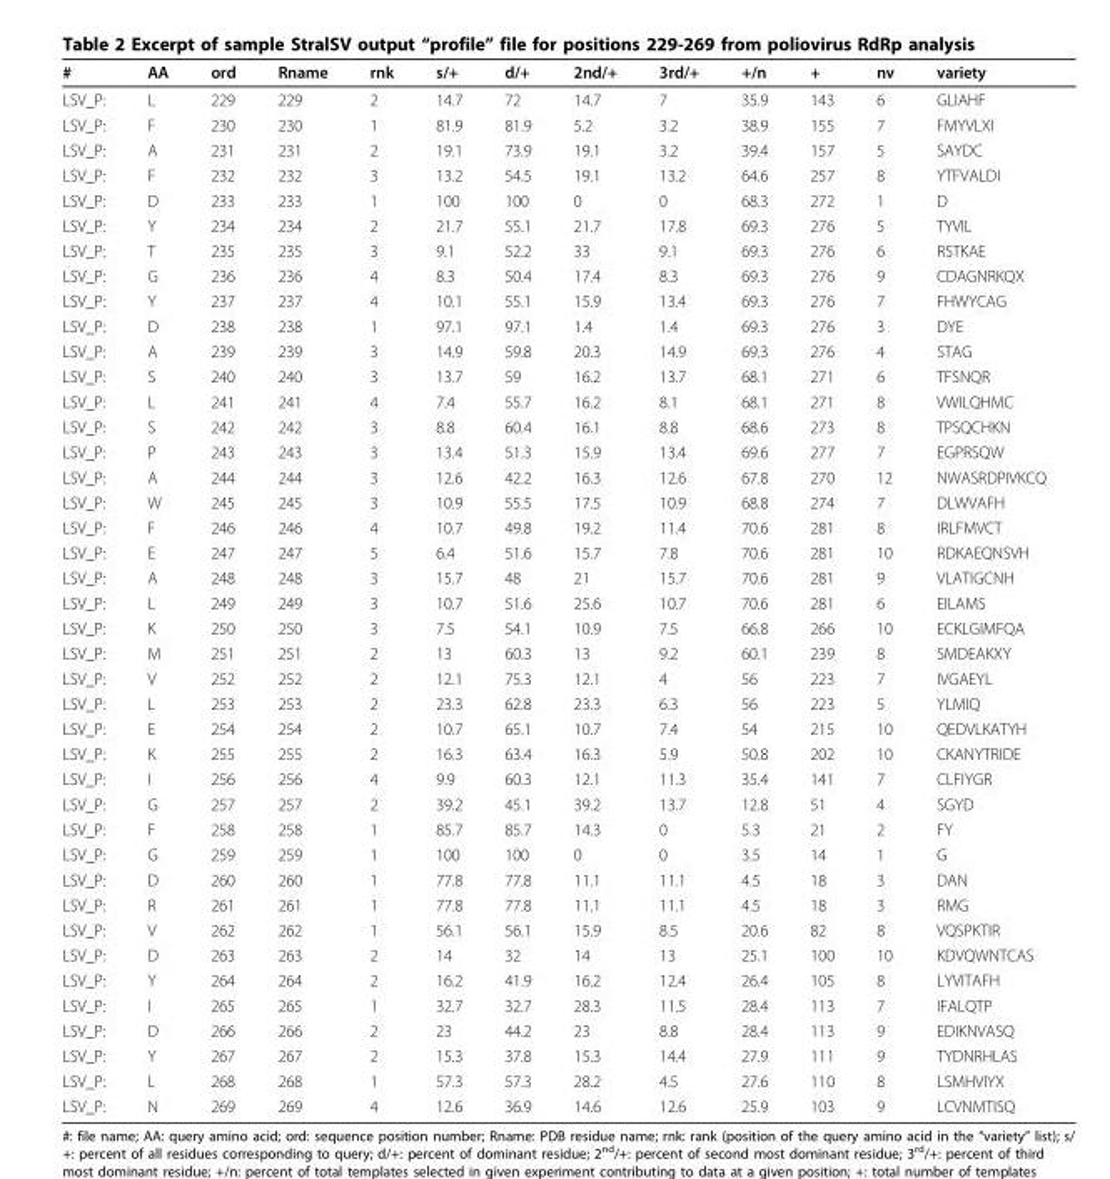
<table><thead><tr><td>#</td><td>AA</td><td>ord</td><td>Rname</td><td>rnk</td><td>s/+</td><td>d/+</td><td>2nd/+</td><td>3rd/+</td><td>+/n</td><td>+</td><td>nv</td><td>variety</td></tr></thead><tbody><tr><td>LSV_P:</td><td>L</td><td>229</td><td>229</td><td>2</td><td>14.7</td><td>72</td><td>14.7</td><td>7</td><td>35.9</td><td>143</td><td>6</td><td>GLIAHF</td></tr><tr><td>LSV_P:</td><td>F</td><td>230</td><td>230</td><td>1</td><td>81.9</td><td>81.9</td><td>5.2</td><td>3.2</td><td>38.9</td><td>155</td><td>7</td><td>FMYVLXI</td></tr><tr><td>LSV_P:</td><td>A</td><td>231</td><td>231</td><td>2</td><td>19.1</td><td>73.9</td><td>19.1</td><td>3.2</td><td>39.4</td><td>157</td><td>5</td><td>SAYDC</td></tr><tr><td>LSV_P:</td><td>F</td><td>232</td><td>232</td><td>3</td><td>13.2</td><td>54.5</td><td>19.1</td><td>13.2</td><td>64.6</td><td>257</td><td>8</td><td>YTFVALDI</td></tr><tr><td>LSV_P:</td><td>D</td><td>233</td><td>233</td><td>1</td><td>100</td><td>100</td><td>0</td><td>0</td><td>68.3</td><td>272</td><td>1</td><td>D</td></tr><tr><td>LSV_P:</td><td>Y</td><td>234</td><td>234</td><td>2</td><td>21.7</td><td>55.1</td><td>21.7</td><td>17.8</td><td>69.3</td><td>276</td><td>5</td><td>TYVIL</td></tr><tr><td>LSV_P:</td><td>T</td><td>235</td><td>235</td><td>3</td><td>9.1</td><td>52.2</td><td>33</td><td>9.1</td><td>69.3</td><td>276</td><td>6</td><td>RSTKAE</td></tr><tr><td>LSV_P:</td><td>G</td><td>236</td><td>236</td><td>4</td><td>8.3</td><td>50.4</td><td>17.4</td><td>8.3</td><td>69.3</td><td>276</td><td>9</td><td>CDAGNRKQX</td></tr><tr><td>LSV_P:</td><td>Y</td><td>237</td><td>237</td><td>4</td><td>10.1</td><td>55.1</td><td>15.9</td><td>13.4</td><td>69.3</td><td>276</td><td>7</td><td>FHWYCAG</td></tr><tr><td>LSV_P:</td><td>D</td><td>238</td><td>238</td><td>1</td><td>97.1</td><td>97.1</td><td>1.4</td><td>1.4</td><td>69.3</td><td>276</td><td>3</td><td>DYE</td></tr><tr><td>LSV_P:</td><td>A</td><td>239</td><td>239</td><td>3</td><td>14.9</td><td>59.8</td><td>20.3</td><td>14.9</td><td>69.3</td><td>276</td><td>4</td><td>STAG</td></tr><tr><td>LSV_P:</td><td>S</td><td>240</td><td>240</td><td>3</td><td>13.7</td><td>59</td><td>16.2</td><td>13.7</td><td>68.1</td><td>271</td><td>6</td><td>TFSNQR</td></tr><tr><td>LSV_P:</td><td>L</td><td>241</td><td>241</td><td>4</td><td>7.4</td><td>55.7</td><td>16.2</td><td>8.1</td><td>68.1</td><td>271</td><td>8</td><td>VWILQHMC</td></tr><tr><td>LSV_P:</td><td>S</td><td>242</td><td>242</td><td>3</td><td>8.8</td><td>60.4</td><td>16.1</td><td>8.8</td><td>68.6</td><td>273</td><td>8</td><td>TPSQCHKN</td></tr><tr><td>LSV_P:</td><td>P</td><td>243</td><td>243</td><td>3</td><td>13.4</td><td>51.3</td><td>15.9</td><td>13.4</td><td>69.6</td><td>277</td><td>7</td><td>EGPRSQW</td></tr><tr><td>LSV_P:</td><td>A</td><td>244</td><td>244</td><td>3</td><td>12.6</td><td>42.2</td><td>16.3</td><td>12.6</td><td>67.8</td><td>270</td><td>12</td><td>NWASRDPIVKCQ</td></tr><tr><td>LSV_P:</td><td>W</td><td>245</td><td>245</td><td>3</td><td>10.9</td><td>55.5</td><td>17.5</td><td>10.9</td><td>68.8</td><td>274</td><td>7</td><td>DLWVAFH</td></tr><tr><td>LSV_P:</td><td>F</td><td>246</td><td>246</td><td>4</td><td>10.7</td><td>49.8</td><td>19.2</td><td>11.4</td><td>70.6</td><td>281</td><td>8</td><td>IRLFMVCT</td></tr><tr><td>LSV_P:</td><td>E</td><td>247</td><td>247</td><td>5</td><td>6.4</td><td>51.6</td><td>15.7</td><td>7.8</td><td>70.6</td><td>281</td><td>10</td><td>RDKAEQNSVH</td></tr><tr><td>LSV_P:</td><td>A</td><td>248</td><td>248</td><td>3</td><td>15.7</td><td>48</td><td>21</td><td>15.7</td><td>70.6</td><td>281</td><td>9</td><td>VLATIGCNH</td></tr><tr><td>LSV_P:</td><td>L</td><td>249</td><td>249</td><td>3</td><td>10.7</td><td>51.6</td><td>25.6</td><td>10.7</td><td>70.6</td><td>281</td><td>6</td><td>EILAMS</td></tr><tr><td>LSV_P:</td><td>K</td><td>250</td><td>250</td><td>3</td><td>7.5</td><td>54.1</td><td>10.9</td><td>7.5</td><td>66.8</td><td>266</td><td>10</td><td>ECKLGIMFQA</td></tr><tr><td>LSV_P:</td><td>M</td><td>251</td><td>251</td><td>2</td><td>13</td><td>60.3</td><td>13</td><td>9.2</td><td>60.1</td><td>239</td><td>8</td><td>SMDEAKXY</td></tr><tr><td>LSV_P:</td><td>V</td><td>252</td><td>252</td><td>2</td><td>12.1</td><td>75.3</td><td>12.1</td><td>4</td><td>56</td><td>223</td><td>7</td><td>IVGAEYL</td></tr><tr><td>LSV_P:</td><td>L</td><td>253</td><td>253</td><td>2</td><td>23.3</td><td>62.8</td><td>23.3</td><td>6.3</td><td>56</td><td>223</td><td>5</td><td>YLMIQ</td></tr><tr><td>LSV_P:</td><td>E</td><td>254</td><td>254</td><td>2</td><td>10.7</td><td>65.1</td><td>10.7</td><td>7.4</td><td>54</td><td>215</td><td>10</td><td>QEDVLKATYH</td></tr><tr><td>LSV_P:</td><td>K</td><td>255</td><td>255</td><td>2</td><td>16.3</td><td>63.4</td><td>16.3</td><td>5.9</td><td>50.8</td><td>202</td><td>10</td><td>CKANYTRIDE</td></tr><tr><td>LSV_P:</td><td>I</td><td>256</td><td>256</td><td>4</td><td>9.9</td><td>60.3</td><td>12.1</td><td>11.3</td><td>35.4</td><td>141</td><td>7</td><td>CLFIYGR</td></tr><tr><td>LSV_P:</td><td>G</td><td>257</td><td>257</td><td>2</td><td>39.2</td><td>45.1</td><td>39.2</td><td>13.7</td><td>12.8</td><td>51</td><td>4</td><td>SGYD</td></tr><tr><td>LSV_P:</td><td>F</td><td>258</td><td>258</td><td>1</td><td>85.7</td><td>85.7</td><td>14.3</td><td>0</td><td>5.3</td><td>21</td><td>2</td><td>FY</td></tr><tr><td>LSV_P:</td><td>G</td><td>259</td><td>259</td><td>1</td><td>100</td><td>100</td><td>0</td><td>0</td><td>3.5</td><td>14</td><td>1</td><td>G</td></tr><tr><td>LSV_P:</td><td>D</td><td>260</td><td>260</td><td>1</td><td>77.8</td><td>77.8</td><td>11.1</td><td>11.1</td><td>4.5</td><td>18</td><td>3</td><td>DAN</td></tr><tr><td>LSV_P:</td><td>R</td><td>261</td><td>261</td><td>1</td><td>77.8</td><td>77.8</td><td>11.1</td><td>11.1</td><td>4.5</td><td>18</td><td>3</td><td>RMG</td></tr><tr><td>LSV_P:</td><td>V</td><td>262</td><td>262</td><td>1</td><td>56.1</td><td>56.1</td><td>15.9</td><td>8.5</td><td>20.6</td><td>82</td><td>8</td><td>VQSPKTIR</td></tr><tr><td>LSV_P:</td><td>D</td><td>263</td><td>263</td><td>2</td><td>14</td><td>32</td><td>14</td><td>13</td><td>25.1</td><td>100</td><td>10</td><td>KDVQWNTCAS</td></tr><tr><td>LSV_P:</td><td>Y</td><td>264</td><td>264</td><td>2</td><td>16.2</td><td>41.9</td><td>16.2</td><td>12.4</td><td>26.4</td><td>105</td><td>8</td><td>LYVITAFH</td></tr><tr><td>LSV_P:</td><td>I</td><td>265</td><td>265</td><td>1</td><td>32.7</td><td>32.7</td><td>28.3</td><td>11.5</td><td>28.4</td><td>113</td><td>7</td><td>IFALQTP</td></tr><tr><td>LSV_P:</td><td>D</td><td>266</td><td>266</td><td>2</td><td>23</td><td>44.2</td><td>23</td><td>8.8</td><td>28.4</td><td>113</td><td>9</td><td>EDIKNVASQ</td></tr><tr><td>LSV_P:</td><td>Y</td><td>267</td><td>267</td><td>2</td><td>15.3</td><td>37.8</td><td>15.3</td><td>14.4</td><td>27.9</td><td>111</td><td>9</td><td>TYDNRHLAS</td></tr><tr><td>LSV_P:</td><td>L</td><td>268</td><td>268</td><td>1</td><td>57.3</td><td>57.3</td><td>28.2</td><td>4.5</td><td>27.6</td><td>110</td><td>8</td><td>LSMHVIYX</td></tr><tr><td>LSV_P:</td><td>N</td><td>269</td><td>269</td><td>4</td><td>12.6</td><td>36.9</td><td>14.6</td><td>12.6</td><td>25.9</td><td>103</td><td>9</td><td>LCVNMTISQ</td></tr></tbody></table>